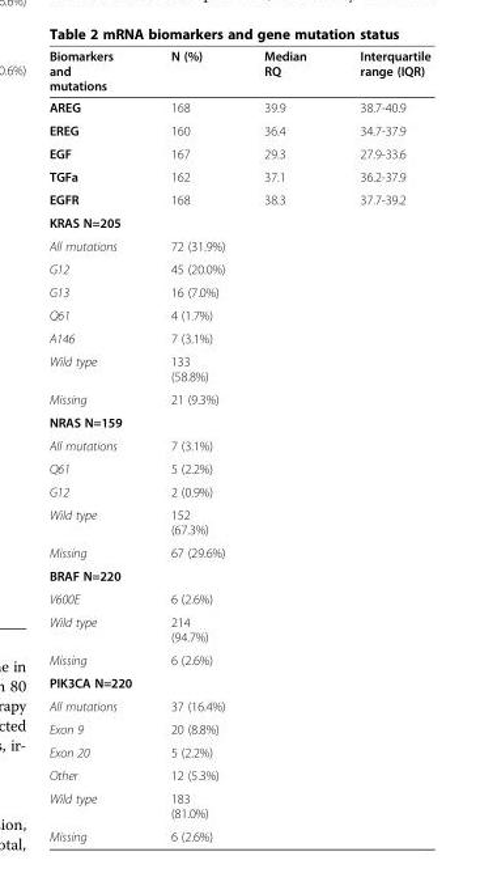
<table><thead><tr><td>Biomarkers and mutations</td><td>N (%)</td><td>Median RQ</td><td>Interquartile range (IQR)</td></tr></thead><tbody><tr><td>AREG</td><td>168</td><td>39.9</td><td>38.7-40.9</td></tr><tr><td>EREG</td><td>160</td><td>36.4</td><td>34.7-37.9</td></tr><tr><td>EGF</td><td>167</td><td>29.3</td><td>27.9-33.6</td></tr><tr><td>TGFa</td><td>162</td><td>37.1</td><td>36.2-37.9</td></tr><tr><td>EGFR</td><td>168</td><td>38.3</td><td>37.7-39.2</td></tr><tr><td colspan="4">KRAS N=205</td></tr><tr><td>All mutations</td><td>72 (31.9%)</td><td></td><td></td></tr><tr><td>G12</td><td>45 (20.0%)</td><td></td><td></td></tr><tr><td>G13</td><td>16 (7.0%)</td><td></td><td></td></tr><tr><td>Q61</td><td>4 (1.7%)</td><td></td><td></td></tr><tr><td>A146</td><td>7 (3.1%)</td><td></td><td></td></tr><tr><td>Wild type</td><td>133 (58.8%)</td><td></td><td></td></tr><tr><td>Missing</td><td>21 (9.3%)</td><td></td><td></td></tr><tr><td colspan="4">NRAS N=159</td></tr><tr><td>All mutations</td><td>7 (3.1%)</td><td></td><td></td></tr><tr><td>Q61</td><td>5 (2.2%)</td><td></td><td></td></tr><tr><td>G12</td><td>2 (0.9%)</td><td></td><td></td></tr><tr><td>Wild type</td><td>152 (67.3%)</td><td></td><td></td></tr><tr><td>Missing</td><td>67 (29.6%)</td><td></td><td></td></tr><tr><td colspan="4">BRAF N=220</td></tr><tr><td>V600E</td><td>6 (2.6%)</td><td></td><td></td></tr><tr><td>Wild type</td><td>214 (94.7%)</td><td></td><td></td></tr><tr><td>Missing</td><td>6 (2.6%)</td><td></td><td></td></tr><tr><td colspan="4">PIK3CA N=220</td></tr><tr><td>All mutations</td><td>37 (16.4%)</td><td></td><td></td></tr><tr><td>Exon 9</td><td>20 (8.8%)</td><td></td><td></td></tr><tr><td>Exon 20</td><td>5 (2.2%)</td><td></td><td></td></tr><tr><td>Other</td><td>12 (5.3%)</td><td></td><td></td></tr><tr><td>Wild type</td><td>183 (81.0%)</td><td></td><td></td></tr><tr><td>Missing</td><td>6 (2.6%)</td><td></td><td></td></tr></tbody></table>